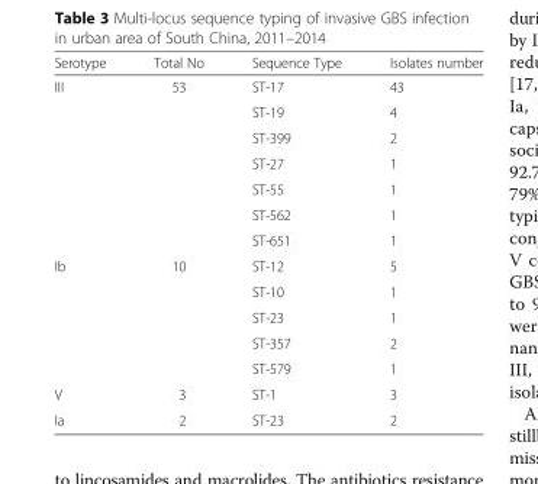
<table><thead><tr><td>Serotype</td><td>Total No</td><td>Sequence Type</td><td>Isolates number</td></tr></thead><tbody><tr><td rowspan="7">III</td><td>53</td><td>ST-17</td><td>43</td></tr><tr><td></td><td>ST-19</td><td>4</td></tr><tr><td></td><td>ST-399</td><td>2</td></tr><tr><td></td><td>ST-27</td><td>1</td></tr><tr><td></td><td>ST-55</td><td>1</td></tr><tr><td></td><td>ST-562</td><td>1</td></tr><tr><td></td><td>ST-651</td><td>1</td></tr><tr><td rowspan="5">Ib</td><td>10</td><td>ST-12</td><td>5</td></tr><tr><td></td><td>ST-10</td><td>1</td></tr><tr><td></td><td>ST-23</td><td>1</td></tr><tr><td></td><td>ST-357</td><td>2</td></tr><tr><td></td><td>ST-579</td><td>1</td></tr><tr><td>V</td><td>3</td><td>ST-1</td><td>3</td></tr><tr><td>Ia</td><td>2</td><td>ST-23</td><td>2</td></tr></tbody></table>